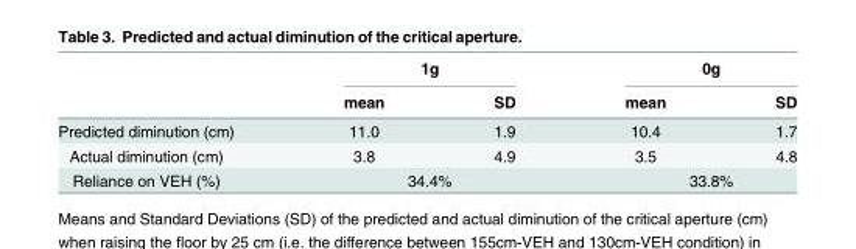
<table><thead><tr><td rowspan="2"></td><td colspan="2">1g</td><td colspan="2">0g</td></tr><tr><td>mean</td><td>SD</td><td>mean</td><td>SD</td></tr></thead><tbody><tr><td>Predicted diminution (cm)</td><td>11.0</td><td>1.9</td><td>10.4</td><td>1.7</td></tr><tr><td>Actual diminution (cm)</td><td>3.8</td><td>4.9</td><td>3.5</td><td>4.8</td></tr><tr><td>Reliance on VEH (%)</td><td colspan="2">34.4%</td><td colspan="2">33.8%</td></tr></tbody></table>